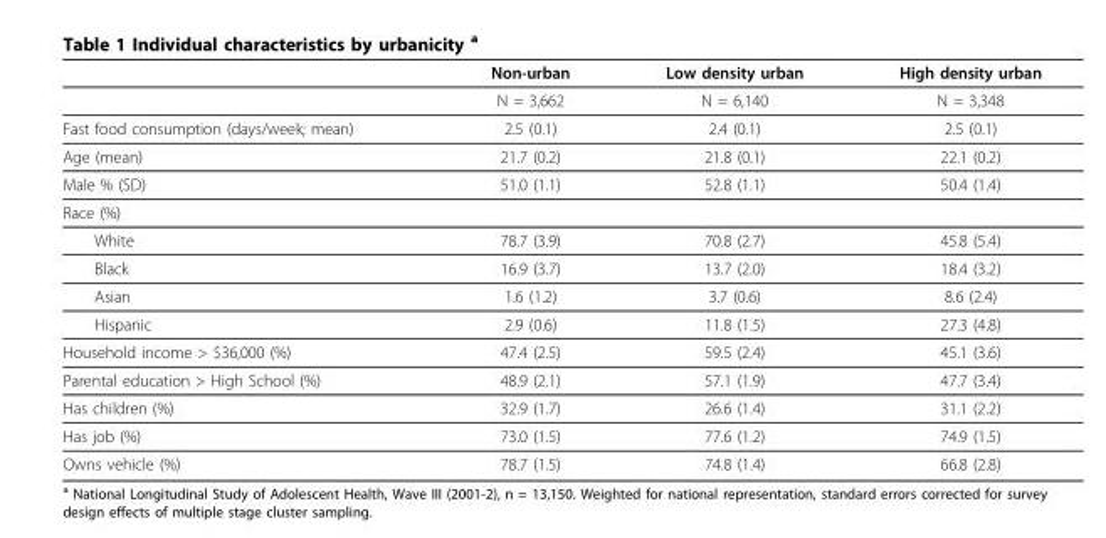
<table><thead><tr><td></td><td>Non-urban</td><td>Low density urban</td><td>High density urban</td></tr></thead><tbody><tr><td></td><td>N = 3,662</td><td>N = 6,140</td><td>N = 3,348</td></tr><tr><td>Fast food consumption (days/week; mean)</td><td>2.5 (0.1)</td><td>2.4 (0.1)</td><td>2.5 (0.1)</td></tr><tr><td>Age (mean)</td><td>21.7 (0.2)</td><td>21.8 (0.1)</td><td>22.1 (0.2)</td></tr><tr><td>Male % (SD)</td><td>51.0 (1.1)</td><td>52.8 (1.1)</td><td>50.4 (1.4)</td></tr><tr><td colspan="4">Race (%)</td></tr><tr><td>White</td><td>78.7 (3.9)</td><td>70.8 (2.7)</td><td>45.8 (5.4)</td></tr><tr><td>Black</td><td>16.9 (3.7)</td><td>13.7 (2.0)</td><td>18.4 (3.2)</td></tr><tr><td>Asian</td><td>1.6 (1.2)</td><td>3.7 (0.6)</td><td>8.6 (2.4)</td></tr><tr><td>Hispanic</td><td>2.9 (0.6)</td><td>11.8 (1.5)</td><td>27.3 (4.8)</td></tr><tr><td>Household income &gt; $36,000 (%)</td><td>47.4 (2.5)</td><td>59.5 (2.4)</td><td>45.1 (3.6)</td></tr><tr><td>Parental education &gt; High School (%)</td><td>48.9 (2.1)</td><td>57.1 (1.9)</td><td>47.7 (3.4)</td></tr><tr><td>Has children (%)</td><td>32.9 (1.7)</td><td>26.6 (1.4)</td><td>31.1 (2.2)</td></tr><tr><td>Has job (%)</td><td>73.0 (1.5)</td><td>77.6 (1.2)</td><td>74.9 (1.5)</td></tr><tr><td>Owns vehicle (%)</td><td>78.7 (1.5)</td><td>74.8 (1.4)</td><td>66.8 (2.8)</td></tr></tbody></table>